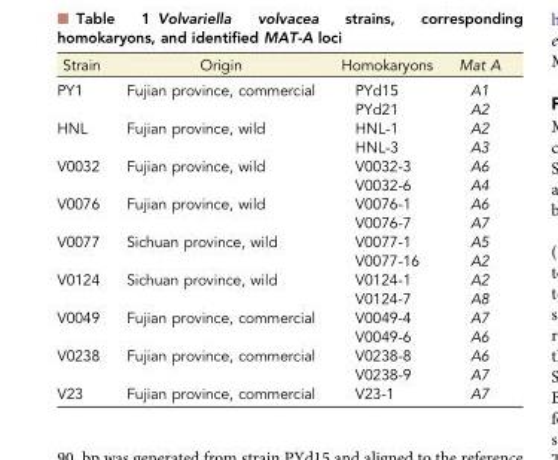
<table><thead><tr><td>Strain</td><td>Origin</td><td>Homokaryons</td><td>Mat A</td></tr></thead><tbody><tr><td rowspan="2">PY1</td><td rowspan="2">Fujian province, commercial</td><td>PYd15</td><td>A1</td></tr><tr><td>PYd21</td><td>A2</td></tr><tr><td rowspan="2">HNL</td><td rowspan="2">Fujian province, wild</td><td>HNL-1</td><td>A2</td></tr><tr><td>HNL-3</td><td>A3</td></tr><tr><td rowspan="2">V0032</td><td rowspan="2">Fujian province, wild</td><td>V0032-3</td><td>A6</td></tr><tr><td>V0032-6</td><td>A4</td></tr><tr><td rowspan="2">V0076</td><td rowspan="2">Fujian province, wild</td><td>V0076-1</td><td>A6</td></tr><tr><td>V0076-7</td><td>A7</td></tr><tr><td rowspan="2">V0077</td><td rowspan="2">Sichuan province, wild</td><td>V0077-1</td><td>A5</td></tr><tr><td>V0077-16</td><td>A2</td></tr><tr><td rowspan="2">V0124</td><td rowspan="2">Sichuan province, wild</td><td>V0124-1</td><td>A2</td></tr><tr><td>V0124-7</td><td>A8</td></tr><tr><td rowspan="2">V0049</td><td rowspan="2">Fujian province, commercial</td><td>V0049-4</td><td>A7</td></tr><tr><td>V0049-6</td><td>A6</td></tr><tr><td rowspan="2">V0238</td><td rowspan="2">Fujian province, commercial</td><td>V0238-8</td><td>A6</td></tr><tr><td>V0238-9</td><td>A7</td></tr><tr><td>V23</td><td>Fujian province, commercial</td><td>V23-1</td><td>A7</td></tr></tbody></table>